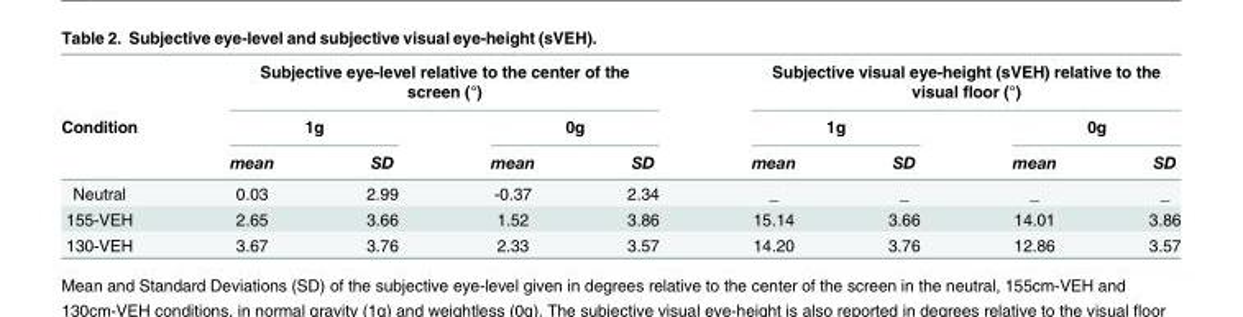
<table><thead><tr><td rowspan="3">Condition</td><td colspan="4">Subjective eye-level relative to the center of the screen (°)</td><td colspan="4">Subjective visual eye-height (sVEH) relative to the visual floor (°)</td></tr><tr><td colspan="2">1g</td><td colspan="2">0g</td><td colspan="2">1g</td><td colspan="2">0g</td></tr><tr><td>mean</td><td>SD</td><td>mean</td><td>SD</td><td>mean</td><td>SD</td><td>mean</td><td>SD</td></tr></thead><tbody><tr><td>Neutral</td><td>0.03</td><td>2.99</td><td>-0.37</td><td>2.34</td><td>_</td><td>_</td><td>_</td><td>_</td></tr><tr><td>155-VEH</td><td>2.65</td><td>3.66</td><td>1.52</td><td>3.86</td><td>15.14</td><td>3.66</td><td>14.01</td><td>3.86</td></tr><tr><td>130-VEH</td><td>3.67</td><td>3.76</td><td>2.33</td><td>3.57</td><td>14.20</td><td>3.76</td><td>12.86</td><td>3.57</td></tr></tbody></table>